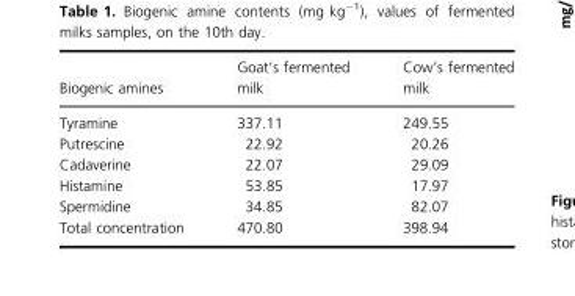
<table><thead><tr><td>Biogenic amines</td><td>Goat’s fermented milk</td><td>Cow’s fermented milk</td></tr></thead><tbody><tr><td>Tyramine</td><td>337.11</td><td>249.55</td></tr><tr><td>Putrescine</td><td>22.92</td><td>20.26</td></tr><tr><td>Cadaverine</td><td>22.07</td><td>29.09</td></tr><tr><td>Histamine</td><td>53.85</td><td>17.97</td></tr><tr><td>Spermidine</td><td>34.85</td><td>82.07</td></tr><tr><td>Total concentration</td><td>470.80</td><td>398.94</td></tr></tbody></table>